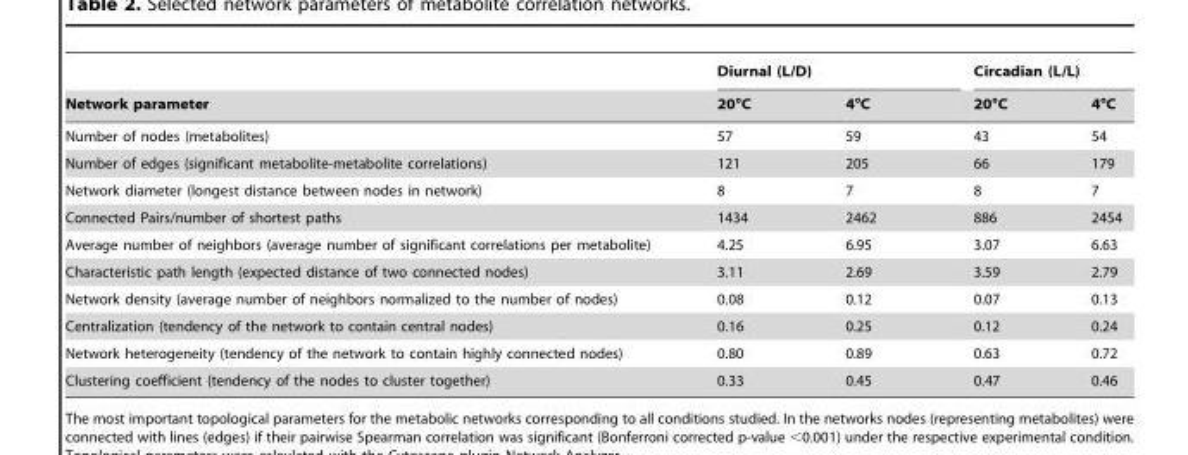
<table><thead><tr><td rowspan="2">Network parameter</td><td colspan="2">Diurnal (L/D)</td><td colspan="2">Circadian (L/L)</td></tr><tr><td>20°C</td><td>4°C</td><td>20°C</td><td>4°C</td></tr></thead><tbody><tr><td>Number of nodes (metabolites)</td><td>57</td><td>59</td><td>43</td><td>54</td></tr><tr><td>Number of edges (significant metabolite-metabolite correlations)</td><td>121</td><td>205</td><td>66</td><td>179</td></tr><tr><td>Network diameter (longest distance between nodes in network)</td><td>8</td><td>7</td><td>8</td><td>7</td></tr><tr><td>Connected Pairs/number of shortest paths</td><td>1434</td><td>2462</td><td>886</td><td>2454</td></tr><tr><td>Average number of neighbors (average number of significant correlations per metabolite)</td><td>4.25</td><td>6.95</td><td>3.07</td><td>6.63</td></tr><tr><td>Characteristic path length (expected distance of two connected nodes)</td><td>3.11</td><td>2.69</td><td>3.59</td><td>2.79</td></tr><tr><td>Network density (average number of neighbors normalized to the number of nodes)</td><td>0.08</td><td>0.12</td><td>0.07</td><td>0.13</td></tr><tr><td>Centralization (tendency of the network to contain central nodes)</td><td>0.16</td><td>0.25</td><td>0.12</td><td>0.24</td></tr><tr><td>Network heterogeneity (tendency of the network to contain highly connected nodes)</td><td>0.80</td><td>0.89</td><td>0.63</td><td>0.72</td></tr><tr><td>Clustering coefficient (tendency of the nodes to cluster together)</td><td>0.33</td><td>0.45</td><td>0.47</td><td>0.46</td></tr></tbody></table>